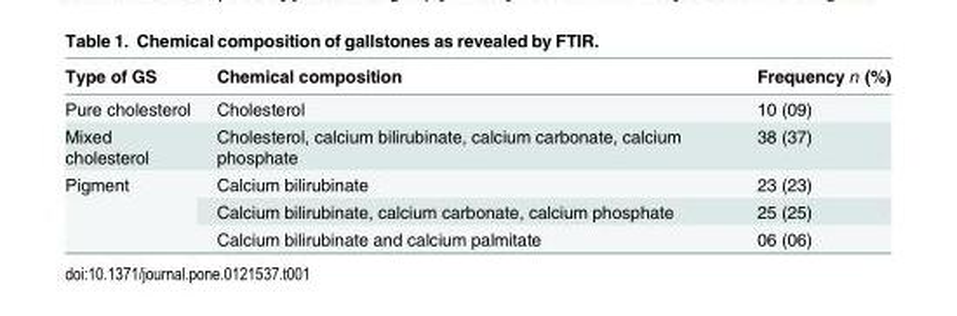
<table><thead><tr><td>Type of GS</td><td>Chemical composition</td><td>Frequency n (%)</td></tr></thead><tbody><tr><td>Pure cholesterol</td><td>Cholesterol</td><td>10 (09)</td></tr><tr><td>Mixed cholesterol</td><td>Cholesterol, calcium bilirubinate, calcium carbonate, calcium phosphate</td><td>38 (37)</td></tr><tr><td rowspan="3">Pigment</td><td>Calcium bilirubinate</td><td>23 (23)</td></tr><tr><td>Calcium bilirubinate, calcium carbonate, calcium phosphate</td><td>25 (25)</td></tr><tr><td>Calcium bilirubinate and calcium palmitate</td><td>06 (06)</td></tr></tbody></table>